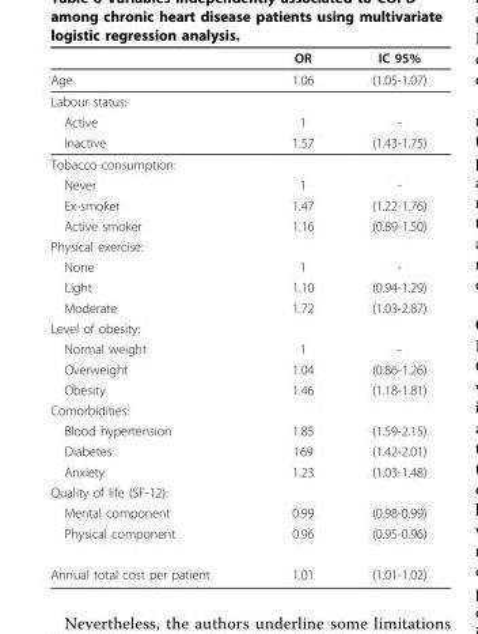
<table><thead><tr><td rowspan="2">Age</td><td rowspan="2">OR 1.06</td><td rowspan="2">IC 95% (1.05-1.07)</td></tr><tr></tr></thead><tbody><tr><td colspan="3">Labour status:</td></tr><tr><td>Active</td><td>1</td><td>-</td></tr><tr><td>Inactive</td><td>1.57</td><td>(1.43-1.75)</td></tr><tr><td colspan="3">Tobacco consumption:</td></tr><tr><td>Never</td><td>1</td><td>-</td></tr><tr><td>Ex-smoker</td><td>1.47</td><td>(1.22-1.76)</td></tr><tr><td>Active smoker</td><td>1.16</td><td>(0.89-1.50)</td></tr><tr><td colspan="3">Physical exercise:</td></tr><tr><td>None</td><td>1</td><td>-</td></tr><tr><td>Light</td><td>1.10</td><td>(0.94-1.29)</td></tr><tr><td>Moderate</td><td>1.72</td><td>(1.03-2.87)</td></tr><tr><td colspan="3">Level of obesity:</td></tr><tr><td>Normal weight</td><td>1</td><td>-</td></tr><tr><td>Overweight</td><td>1.04</td><td>(0.86-1.26)</td></tr><tr><td>Obesity</td><td>1.46</td><td>(1.18-1.81)</td></tr><tr><td colspan="3">Comorbidities:</td></tr><tr><td>Blood hypertension</td><td>1.85</td><td>(1.59-2.15)</td></tr><tr><td>Diabetes</td><td>169</td><td>(1.42-2.01)</td></tr><tr><td>Anxiety</td><td>1.23</td><td>(1.03-1.48)</td></tr><tr><td colspan="3">Quality of life (SF-12):</td></tr><tr><td>Mental component</td><td>0.99</td><td>(0.98-0.99)</td></tr><tr><td>Physical component</td><td>0.96</td><td>(0.95-0.96)</td></tr><tr><td>Annual total cost per patient</td><td>1.01</td><td>(1.01-1.02)</td></tr></tbody></table>